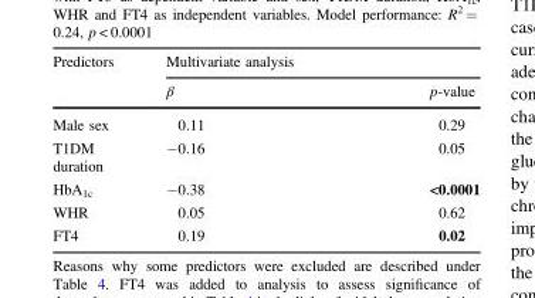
<table><thead><tr><td rowspan="2">Predictors</td><td colspan="2">Multivariate analysis</td></tr><tr><td>β</td><td>p-value</td></tr></thead><tbody><tr><td>Male sex</td><td>0.11</td><td>0.29</td></tr><tr><td>T1DM duration</td><td>−0.16</td><td>0.05</td></tr><tr><td>HbA<sub>1c</sub></td><td>−0.38</td><td>&lt;0.0001</td></tr><tr><td>WHR</td><td>0.05</td><td>0.62</td></tr><tr><td>FT4</td><td>0.19</td><td>0.02</td></tr></tbody></table>